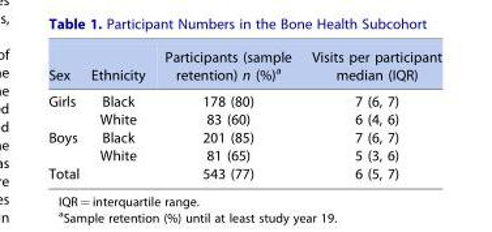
<table><thead><tr><td>Sex</td><td>Ethnicity</td><td>Participants (sample retention) n (%)<sup>a</sup></td><td>Visits per participant median (IQR)</td></tr></thead><tbody><tr><td rowspan="2">Girls</td><td>Black</td><td>178 (80)</td><td>7 (6, 7)</td></tr><tr><td>White</td><td>83 (60)</td><td>6 (4, 6)</td></tr><tr><td rowspan="2">Boys</td><td>Black</td><td>201 (85)</td><td>7 (6, 7)</td></tr><tr><td>White</td><td>81 (65)</td><td>5 (3, 6)</td></tr><tr><td>Total</td><td></td><td>543 (77)</td><td>6 (5, 7)</td></tr></tbody></table>